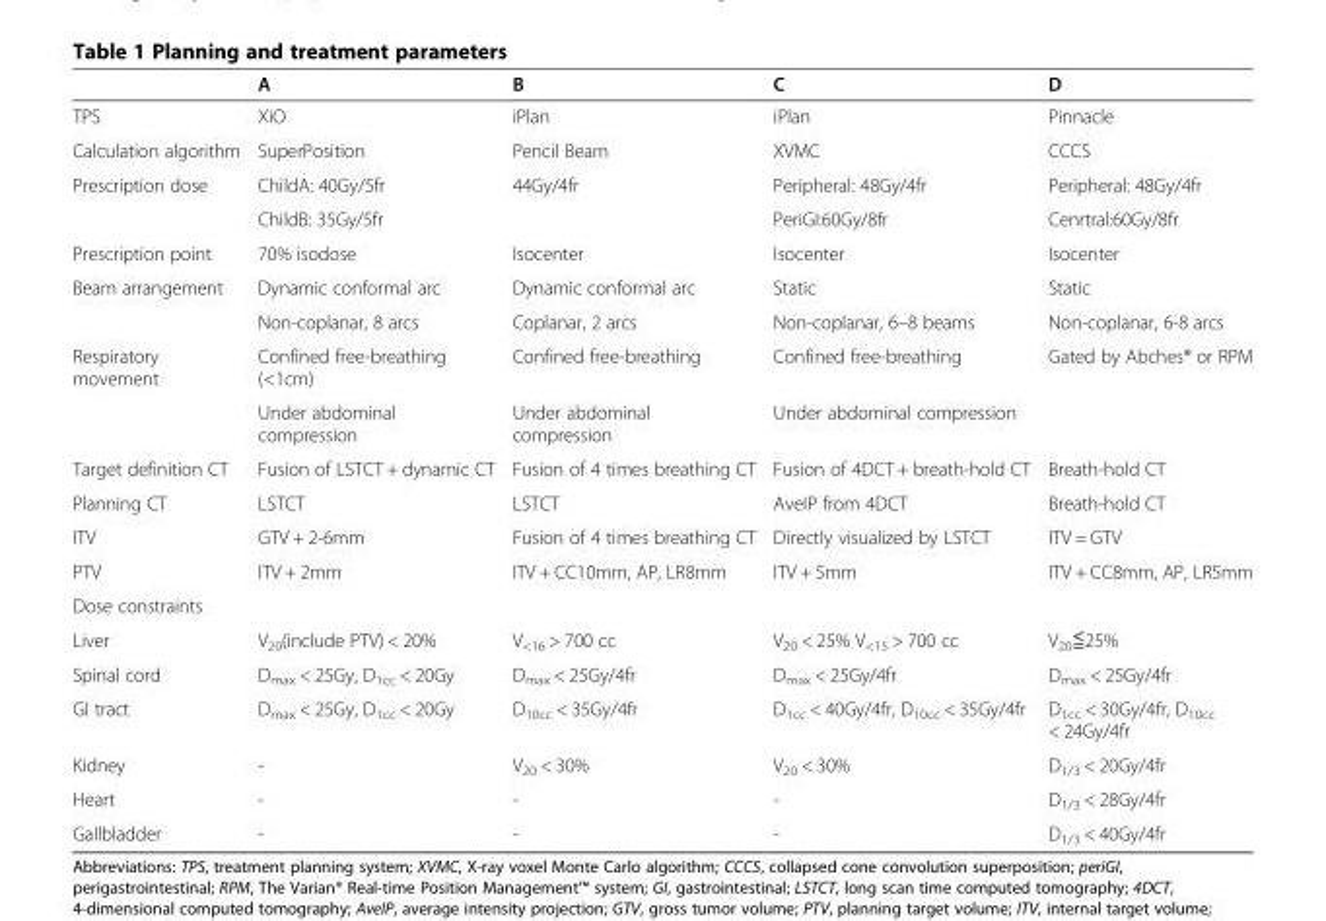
<table><thead><tr><td></td><td>A</td><td>B</td><td>C</td><td>D</td></tr></thead><tbody><tr><td>TPS</td><td>XiO</td><td>iPlan</td><td>iPlan</td><td>Pinnacle</td></tr><tr><td>Calculation algorithm</td><td>SuperPosition</td><td>Pencil Beam</td><td>XVMC</td><td>CCCS</td></tr><tr><td rowspan="2">Prescription dose</td><td>ChildA: 40Gy/5fr</td><td>44Gy/4fr</td><td>Peripheral: 48Gy/4fr</td><td>Peripheral: 48Gy/4fr</td></tr><tr><td>ChildB: 35Gy/5fr</td><td></td><td>PeriGI:60Gy/8fr</td><td>Cenrtral:60Gy/8fr</td></tr><tr><td>Prescription point</td><td>70% isodose</td><td>Isocenter</td><td>Isocenter</td><td>Isocenter</td></tr><tr><td rowspan="2">Beam arrangement</td><td>Dynamic conformal arc</td><td>Dynamic conformal arc</td><td>Static</td><td>Static</td></tr><tr><td>Non-coplanar, 8 arcs</td><td>Coplanar, 2 arcs</td><td>Non-coplanar, 6–8 beams</td><td>Non-coplanar, 6-8 arcs</td></tr><tr><td rowspan="2">Respiratory movement</td><td>Confined free-breathing (&lt;1cm)</td><td>Confined free-breathing</td><td>Confined free-breathing</td><td>Gated by Abches® or RPM</td></tr><tr><td>Under abdominal compression</td><td>Under abdominal compression</td><td>Under abdominal compression</td><td></td></tr><tr><td>Target definition CT</td><td>Fusion of LSTCT + dynamic CT</td><td>Fusion of 4 times breathing CT</td><td>Fusion of 4DCT + breath-hold CT</td><td>Breath-hold CT</td></tr><tr><td>Planning CT</td><td>LSTCT</td><td>LSTCT</td><td>AveIP from 4DCT</td><td>Breath-hold CT</td></tr><tr><td>ITV</td><td>GTV + 2-6mm</td><td>Fusion of 4 times breathing CT</td><td>Directly visualized by LSTCT</td><td>ITV = GTV</td></tr><tr><td>PTV</td><td>ITV + 2mm</td><td>ITV + CC10mm, AP, LR8mm</td><td>ITV + 5mm</td><td>ITV + CC8mm, AP, LR5mm</td></tr><tr><td colspan="5">Dose constraints</td></tr><tr><td>Liver</td><td>V<sub>20</sub>(include PTV) &lt; 20%</td><td>V<sub>&lt;16</sub> &gt; 700 cc</td><td>V<sub>20</sub> &lt; 25% V<sub>&lt;15</sub> &gt; 700 cc</td><td>V<sub>20</sub>≦25%</td></tr><tr><td>Spinal cord</td><td>D<sub>max</sub> &lt; 25Gy, D<sub>1cc</sub> &lt; 20Gy</td><td>D<sub>max</sub> &lt; 25Gy/4fr</td><td>D<sub>max</sub> &lt; 25Gy/4fr</td><td>D<sub>max</sub> &lt; 25Gy/4fr</td></tr><tr><td>GI tract</td><td>D<sub>max</sub> &lt; 25Gy, D<sub>1cc</sub> &lt; 20Gy</td><td>D<sub>10cc</sub> &lt; 35Gy/4fr</td><td>D<sub>1cc</sub> &lt; 40Gy/4fr, D<sub>10cc</sub> &lt; 35Gy/4fr</td><td>D<sub>1cc</sub> &lt; 30Gy/4fr, D<sub>10cc</sub> &lt; 24Gy/4fr</td></tr><tr><td>Kidney</td><td>-</td><td>V<sub>20</sub> &lt; 30%</td><td>V<sub>20</sub> &lt; 30%</td><td>D<sub>1/3</sub> &lt; 20Gy/4fr</td></tr><tr><td>Heart</td><td>-</td><td>-</td><td>-</td><td>D<sub>1/3</sub> &lt; 28Gy/4fr</td></tr><tr><td>Gallbladder</td><td>-</td><td>-</td><td>-</td><td>D<sub>1/3</sub> &lt; 40Gy/4fr</td></tr></tbody></table>